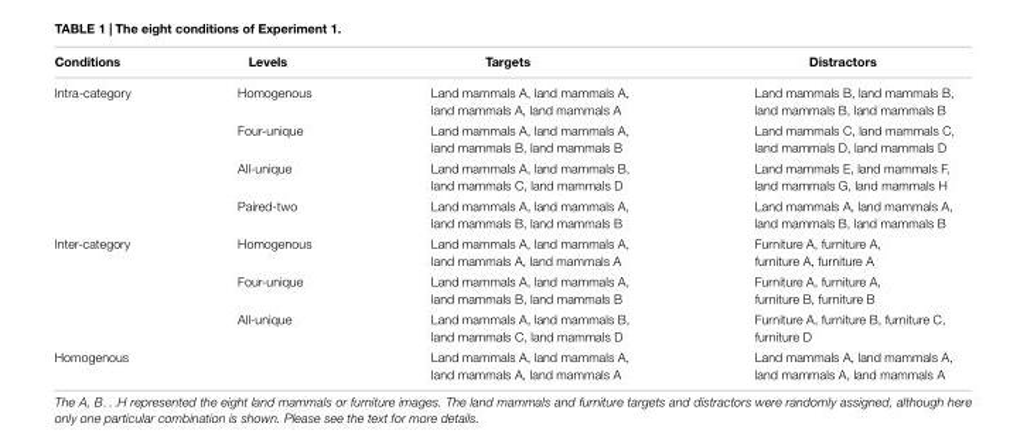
<table><thead><tr><td>Conditions</td><td>Levels</td><td>Targets</td><td>Distractors</td></tr></thead><tbody><tr><td rowspan="4">Intra-category</td><td>Homogenous</td><td>Land mammals A, land mammals A, land mammals A, land mammals A</td><td>Land mammals B, land mammals B, land mammals B, land mammals B</td></tr><tr><td>Four-unique</td><td>Land mammals A, land mammals A, land mammals B, land mammals B</td><td>Land mammals C, land mammals C, land mammals D, land mammals D</td></tr><tr><td>All-unique</td><td>Land mammals A, land mammals B, land mammals C, land mammals D</td><td>Land mammals E, land mammals F, land mammals G, land mammals H</td></tr><tr><td>Paired-two</td><td>Land mammals A, land mammals A, land mammals B, land mammals B</td><td>Land mammals A, land mammals A, land mammals B, land mammals B</td></tr><tr><td rowspan="3">Inter-category</td><td>Homogenous</td><td>Land mammals A, land mammals A, land mammals A, land mammals A</td><td>Furniture A, furniture A, furniture A, furniture A</td></tr><tr><td>Four-unique</td><td>Land mammals A, land mammals A, land mammals B, land mammals B</td><td>Furniture A, furniture A, furniture B, furniture B</td></tr><tr><td>All-unique</td><td>Land mammals A, land mammals B, land mammals C, land mammals D</td><td>Furniture A, furniture B, furniture C, furniture D</td></tr><tr><td>Homogenous</td><td></td><td>Land mammals A, land mammals A, land mammals A, land mammals A</td><td>Land mammals A, land mammals A, land mammals A, land mammals A</td></tr></tbody></table>